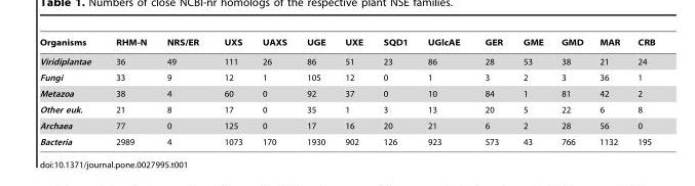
<table><thead><tr><td>Organisms</td><td>RHM-N</td><td>NRS/ER</td><td>UXS</td><td>UAXS</td><td>UGE</td><td>UXE</td><td>SQD1</td><td>UGlcAE</td><td>GER</td><td>GME</td><td>GMD</td><td>MAR</td><td>CRB</td></tr></thead><tbody><tr><td>Viridiplantae</td><td>36</td><td>49</td><td>111</td><td>26</td><td>86</td><td>51</td><td>23</td><td>86</td><td>28</td><td>53</td><td>38</td><td>21</td><td>24</td></tr><tr><td>Fungi</td><td>33</td><td>9</td><td>12</td><td>1</td><td>105</td><td>12</td><td>0</td><td>1</td><td>3</td><td>2</td><td>3</td><td>36</td><td>1</td></tr><tr><td>Metazoa</td><td>38</td><td>4</td><td>60</td><td>0</td><td>92</td><td>37</td><td>0</td><td>10</td><td>84</td><td>1</td><td>81</td><td>42</td><td>2</td></tr><tr><td>Other euk.</td><td>21</td><td>8</td><td>17</td><td>0</td><td>35</td><td>1</td><td>3</td><td>13</td><td>20</td><td>5</td><td>22</td><td>6</td><td>8</td></tr><tr><td>Archaea</td><td>77</td><td>0</td><td>125</td><td>0</td><td>17</td><td>16</td><td>20</td><td>21</td><td>6</td><td>2</td><td>28</td><td>56</td><td>0</td></tr><tr><td>Bacteria</td><td>2989</td><td>4</td><td>1073</td><td>170</td><td>1930</td><td>902</td><td>126</td><td>923</td><td>573</td><td>43</td><td>766</td><td>1132</td><td>195</td></tr></tbody></table>